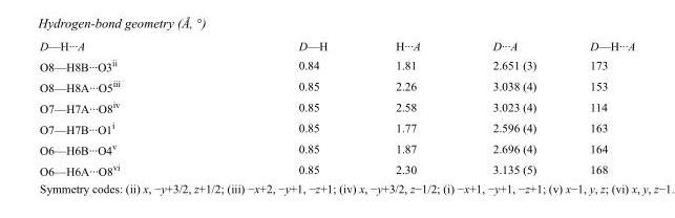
<table><tbody><tr><td>D—H···A</td><td>D—H</td><td>H···A</td><td>D···A</td><td>D—H···A</td></tr><tr><td>O8—H8B···O3<sup>ii</sup></td><td>0.84</td><td>1.81</td><td>2.651 (3)</td><td>173</td></tr><tr><td>O8—H8A···O5<sup>iii</sup></td><td>0.85</td><td>2.26</td><td>3.038 (4)</td><td>153</td></tr><tr><td>O7—H7A···O8<sup>iv</sup></td><td>0.85</td><td>2.58</td><td>3.023 (4)</td><td>114</td></tr><tr><td>O7—H7B···O1<sup>i</sup></td><td>0.85</td><td>1.77</td><td>2.596 (4)</td><td>163</td></tr><tr><td>O6—H6B···O4<sup>v</sup></td><td>0.85</td><td>1.87</td><td>2.696 (4)</td><td>164</td></tr><tr><td>O6—H6A···O8<sup>vi</sup></td><td>0.85</td><td>2.30</td><td>3.135 (5)</td><td>168</td></tr></tbody></table>